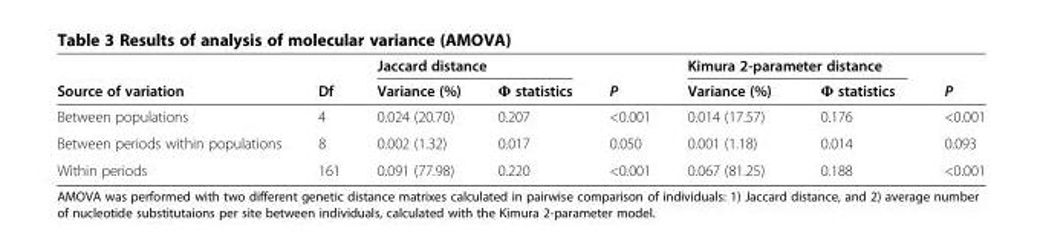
<table><thead><tr><td rowspan="2">Source of variation</td><td rowspan="2">Df</td><td colspan="2">Jaccard distance</td><td rowspan="2">P</td><td colspan="2">Kimura 2-parameter distance</td><td rowspan="2">P</td></tr><tr><td>Variance (%)</td><td>Φ statistics</td><td>Variance (%)</td><td>Φ statistics</td></tr></thead><tbody><tr><td>Between populations</td><td>4</td><td>0.024 (20.70)</td><td>0.207</td><td>&lt;0.001</td><td>0.014 (17.57)</td><td>0.176</td><td>&lt;0.001</td></tr><tr><td>Between periods within populations</td><td>8</td><td>0.002 (1.32)</td><td>0.017</td><td>0.050</td><td>0.001 (1.18)</td><td>0.014</td><td>0.093</td></tr><tr><td>Within periods</td><td>161</td><td>0.091 (77.98)</td><td>0.220</td><td>&lt;0.001</td><td>0.067 (81.25)</td><td>0.188</td><td>&lt;0.001</td></tr></tbody></table>